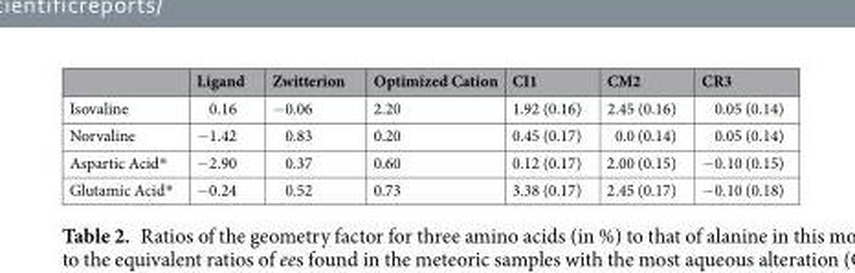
<table><thead><tr><td></td><td>Ligand</td><td>Zwitterion</td><td>Optimized Cation</td><td>CI1</td><td>CM2</td><td>CR3</td></tr></thead><tbody><tr><td>Isovaline</td><td>0.16</td><td>−0.06</td><td>2.20</td><td>1.92 (0.16)</td><td>2.45 (0.16)</td><td>0.05 (0.14)</td></tr><tr><td>Norvaline</td><td>−1.42</td><td>0.83</td><td>0.20</td><td>0.45 (0.17)</td><td>0.0 (0.14)</td><td>0.05 (0.14)</td></tr><tr><td>Aspartic Acid*</td><td>−2.90</td><td>0.37</td><td>0.60</td><td>0.12 (0.17)</td><td>2.00 (0.15)</td><td>−0.10 (0.15)</td></tr><tr><td>Glutamic Acid*</td><td>−0.24</td><td>0.52</td><td>0.73</td><td>3.38 (0.17)</td><td>2.45 (0.17)</td><td>−0.10 (0.18)</td></tr></tbody></table>